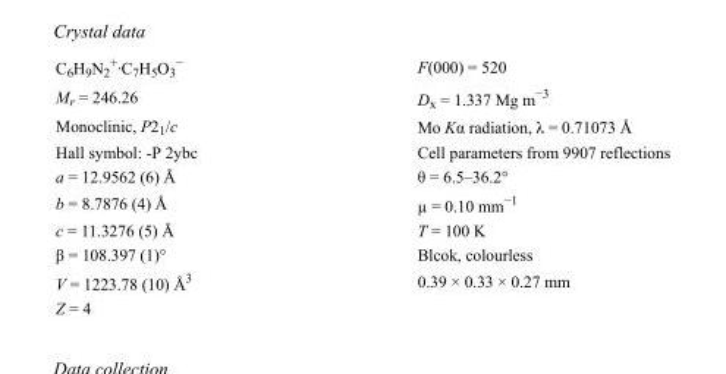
<table><tbody><tr><td>C<sub>6</sub>H<sub>9</sub>N<sub>2</sub> <sup>+</sup>·C<sub>7</sub>H<sub>5</sub>O<sub>3</sub> <sup>−</sup></td><td>F(000) = 520</td></tr><tr><td>M<sub>r</sub> = 246.26</td><td>D<sub>x</sub> = 1.337 Mg m<sup>−3</sup></td></tr><tr><td>Monoclinic, P2<sub>1</sub>/c</td><td>Mo Kα radiation, λ = 0.71073 Å</td></tr><tr><td>Hall symbol: -P 2ybc</td><td>Cell parameters from 9907 reflections</td></tr><tr><td>a = 12.9562 (6) Å</td><td>θ = 6.5–36.2°</td></tr><tr><td>b = 8.7876 (4) Å</td><td>µ = 0.10 mm<sup>−1</sup></td></tr><tr><td>c = 11.3276 (5) Å</td><td>T = 100 K</td></tr><tr><td>β = 108.397 (1)°</td><td>Blcok, colourless</td></tr><tr><td>V = 1223.78 (10) Å<sup>3</sup></td><td>0.39 × 0.33 × 0.27 mm</td></tr><tr><td>Z = 4</td><td></td></tr></tbody></table>